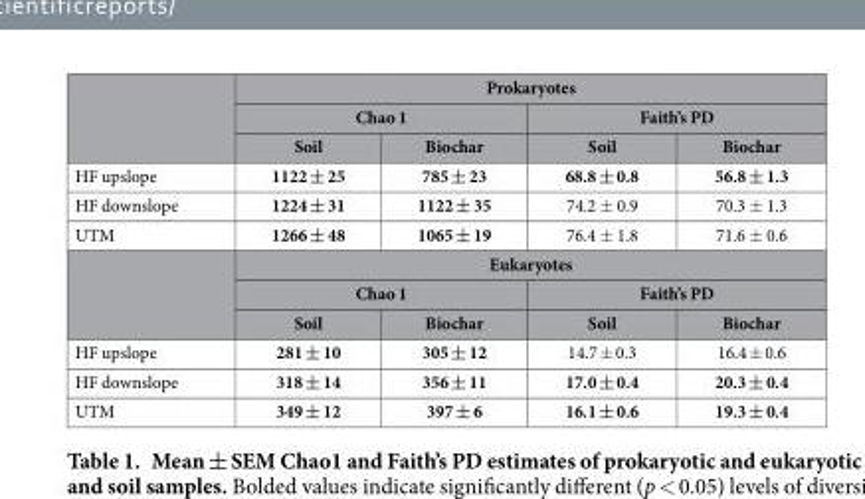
<table><thead><tr><td rowspan="3"></td><td colspan="4">Prokaryotes</td></tr><tr><td colspan="2">Chao 1</td><td colspan="2">Faith’s PD</td></tr><tr><td>Soil</td><td>Biochar</td><td>Soil</td><td>Biochar</td></tr></thead><tbody><tr><td>HF upslope</td><td>1122 ± 25</td><td>785 ± 23</td><td>68.8 ± 0.8</td><td>56.8 ± 1.3</td></tr><tr><td>HF downslope</td><td>1224 ± 31</td><td>1122 ± 35</td><td>74.2 ± 0.9</td><td>70.3 ± 1.3</td></tr><tr><td rowspan="4">UTM</td><td>1266 ± 48</td><td>1065 ± 19</td><td>76.4 ± 1.8</td><td>71.6 ± 0.6</td></tr><tr><td colspan="4">Eukaryotes</td></tr><tr><td colspan="2">Chao 1</td><td colspan="2">Faith’s PD</td></tr><tr><td>Soil</td><td>Biochar</td><td>Soil</td><td>Biochar</td></tr><tr><td>HF upslope</td><td>281 ± 10</td><td>305 ± 12</td><td>14.7 ± 0.3</td><td>16.4 ± 0.6</td></tr><tr><td>HF downslope</td><td>318 ± 14</td><td>356 ± 11</td><td>17.0 ± 0.4</td><td>20.3 ± 0.4</td></tr><tr><td>UTM</td><td>349 ± 12</td><td>397 ± 6</td><td>16.1 ± 0.6</td><td>19.3 ± 0.4</td></tr></tbody></table>